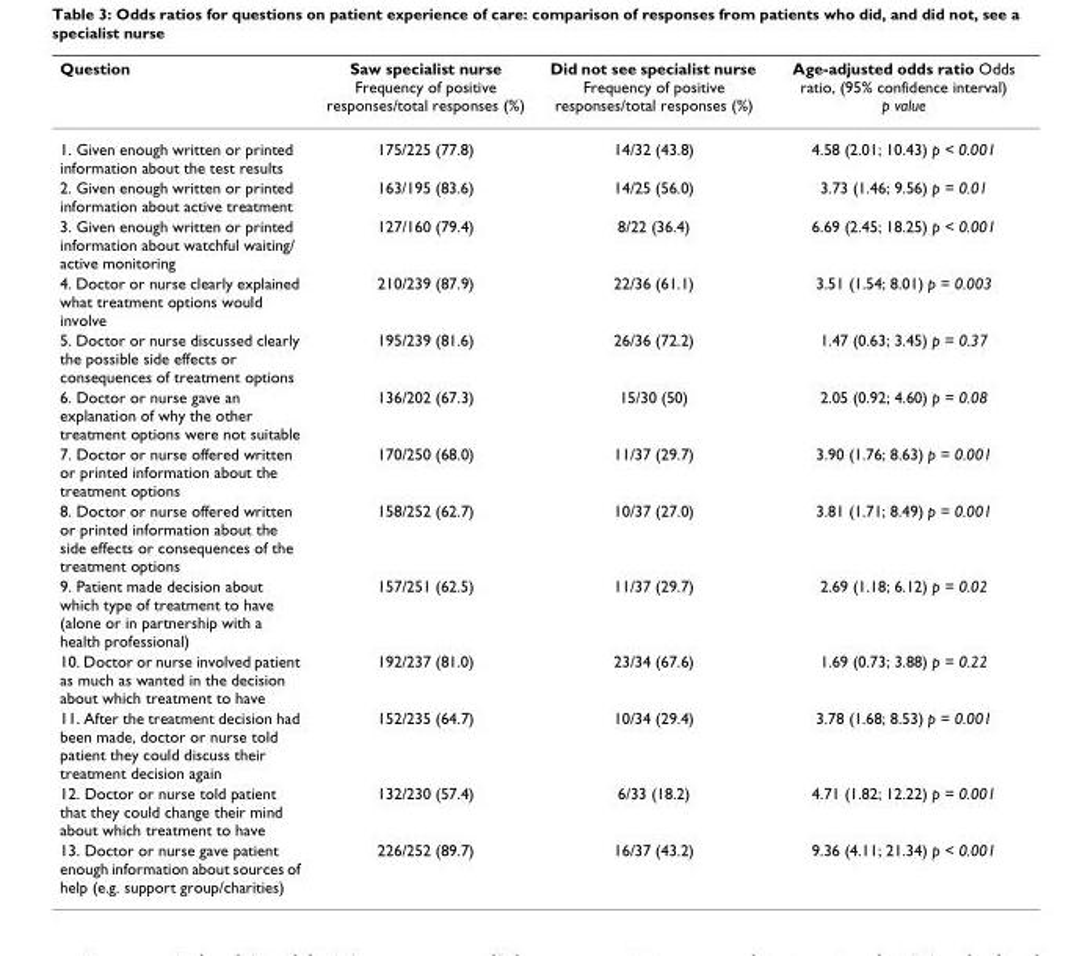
<table><thead><tr><td>Question</td><td>Saw specialist nurse Frequency of positive responses/total responses (%)</td><td>Did not see specialist nurse Frequency of positive responses/total responses (%)</td><td>Age-adjusted odds ratio Odds ratio, (95% confidence interval) p value</td></tr></thead><tbody><tr><td>1. Given enough written or printed information about the test results</td><td>175/225 (77.8)</td><td>14/32 (43.8)</td><td>4.58 (2.01; 10.43) p &lt; 0.001</td></tr><tr><td>2. Given enough written or printed information about active treatment</td><td>163/195 (83.6)</td><td>14/25 (56.0)</td><td>3.73 (1.46; 9.56) p = 0.01</td></tr><tr><td>3. Given enough written or printed information about watchful waiting/ active monitoring</td><td>127/160 (79.4)</td><td>8/22 (36.4)</td><td>6.69 (2.45; 18.25) p &lt; 0.001</td></tr><tr><td>4. Doctor or nurse clearly explained what treatment options would involve</td><td>210/239 (87.9)</td><td>22/36 (61.1)</td><td>3.51 (1.54; 8.01) p = 0.003</td></tr><tr><td>5. Doctor or nurse discussed clearly the possible side effects or consequences of treatment options</td><td>195/239 (81.6)</td><td>26/36 (72.2)</td><td>1.47 (0.63; 3.45) p = 0.37</td></tr><tr><td>6. Doctor or nurse gave an explanation of why the other treatment options were not suitable</td><td>136/202 (67.3)</td><td>15/30 (50)</td><td>2.05 (0.92; 4.60) p = 0.08</td></tr><tr><td>7. Doctor or nurse offered written or printed information about the treatment options</td><td>170/250 (68.0)</td><td>11/37 (29.7)</td><td>3.90 (1.76; 8.63) p = 0.001</td></tr><tr><td>8. Doctor or nurse offered written or printed information about the side effects or consequences of the treatment options</td><td>158/252 (62.7)</td><td>10/37 (27.0)</td><td>3.81 (1.71; 8.49) p = 0.001</td></tr><tr><td>9. Patient made decision about which type of treatment to have (alone or in partnership with a health professional)</td><td>157/251 (62.5)</td><td>11/37 (29.7)</td><td>2.69 (1.18; 6.12) p = 0.02</td></tr><tr><td>10. Doctor or nurse involved patient as much as wanted in the decision about which treatment to have</td><td>192/237 (81.0)</td><td>23/34 (67.6)</td><td>1.69 (0.73; 3.88) p = 0.22</td></tr><tr><td>11. After the treatment decision had been made, doctor or nurse told patient they could discuss their treatment decision again</td><td>152/235 (64.7)</td><td>10/34 (29.4)</td><td>3.78 (1.68; 8.53) p = 0.001</td></tr><tr><td>12. Doctor or nurse told patient that they could change their mind about which treatment to have</td><td>132/230 (57.4)</td><td>6/33 (18.2)</td><td>4.71 (1.82; 12.22) p = 0.001</td></tr><tr><td>13. Doctor or nurse gave patient enough information about sources of help (e.g. support group/charities)</td><td>226/252 (89.7)</td><td>16/37 (43.2)</td><td>9.36 (4.11; 21.34) p &lt; 0.001</td></tr></tbody></table>